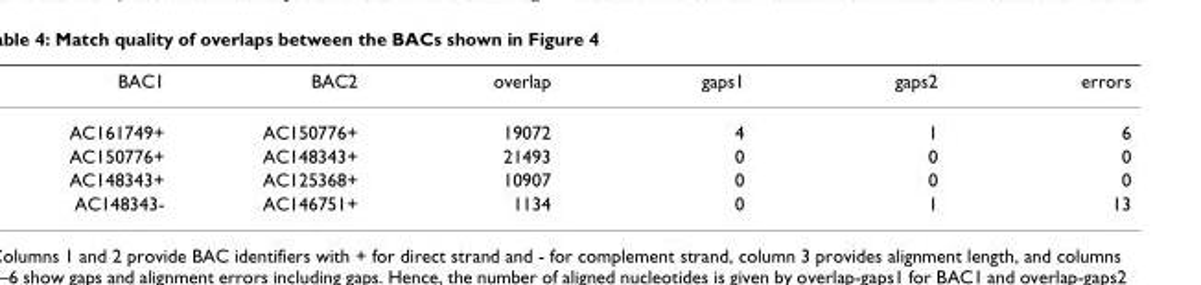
<table><thead><tr><td>BAC1</td><td>BAC2</td><td>overlap</td><td>gaps1</td><td>gaps2</td><td>errors</td></tr></thead><tbody><tr><td>AC161749+</td><td>AC150776+</td><td>19072</td><td>4</td><td>1</td><td>6</td></tr><tr><td>AC150776+</td><td>AC148343+</td><td>21493</td><td>0</td><td>0</td><td>0</td></tr><tr><td>AC148343+</td><td>AC125368+</td><td>10907</td><td>0</td><td>0</td><td>0</td></tr><tr><td>AC148343-</td><td>AC146751+</td><td>1134</td><td>0</td><td>1</td><td>13</td></tr></tbody></table>